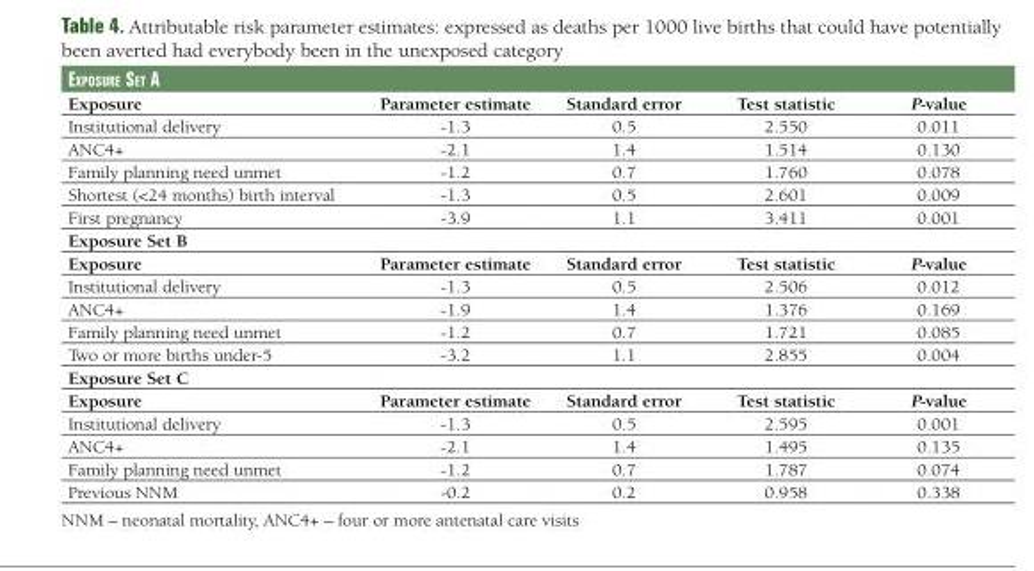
<table><thead><tr><td colspan="5">exPosuRe set a</td></tr><tr><td>Exposure</td><td>Parameter estimate</td><td>Standard error</td><td>Test statistic</td><td>P-value</td></tr></thead><tbody><tr><td>Institutional delivery</td><td>-1.3</td><td>0.5</td><td>2.550</td><td>0.011</td></tr><tr><td>ANC4+</td><td>-2.1</td><td>1.4</td><td>1.514</td><td>0.130</td></tr><tr><td>Family planning need unmet</td><td>-1.2</td><td>0.7</td><td>1.760</td><td>0.078</td></tr><tr><td>Shortest (&lt;24 months) birth interval</td><td>-1.3</td><td>0.5</td><td>2.601</td><td>0.009</td></tr><tr><td>First pregnancy</td><td>-3.9</td><td>1.1</td><td>3.411</td><td>0.001</td></tr><tr><td colspan="5">Exposure Set B</td></tr><tr><td>Exposure</td><td>Parameter estimate</td><td>Standard error</td><td>Test statistic</td><td>P-value</td></tr><tr><td>Institutional delivery</td><td>-1.3</td><td>0.5</td><td>2.506</td><td>0.012</td></tr><tr><td>ANC4+</td><td>-1.9</td><td>1.4</td><td>1.376</td><td>0.169</td></tr><tr><td>Family planning need unmet</td><td>-1.2</td><td>0.7</td><td>1.721</td><td>0.085</td></tr><tr><td>Two or more births under-5</td><td>-3.2</td><td>1.1</td><td>2.855</td><td>0.004</td></tr><tr><td colspan="5">Exposure Set C</td></tr><tr><td>Exposure</td><td>Parameter estimate</td><td>Standard error</td><td>Test statistic</td><td>P-value</td></tr><tr><td>Institutional delivery</td><td>-1.3</td><td>0.5</td><td>2.595</td><td>0.001</td></tr><tr><td>ANC4+</td><td>-2.1</td><td>1.4</td><td>1.495</td><td>0.135</td></tr><tr><td>Family planning need unmet</td><td>-1.2</td><td>0.7</td><td>1.787</td><td>0.074</td></tr><tr><td>Previous NNM</td><td>-0.2</td><td>0.2</td><td>0.958</td><td>0.338</td></tr></tbody></table>